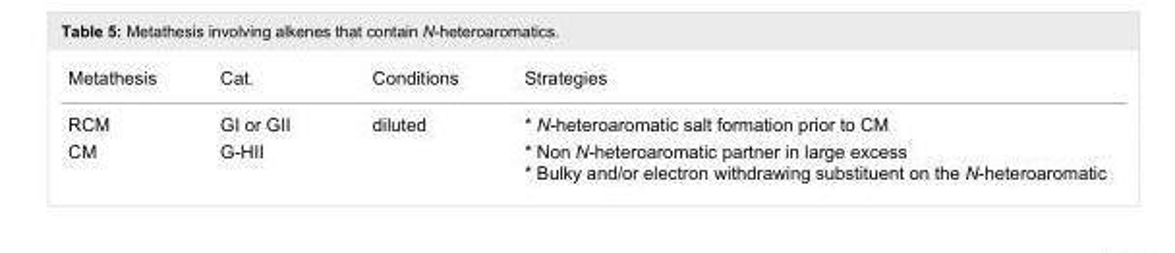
<table><tbody><tr><td>Metathesis</td><td>Cat.</td><td>Conditions</td><td>Strategies</td></tr><tr><td>RCM</td><td>GI or GII</td><td>diluted</td><td>* N-heteroaromatic salt formation prior to CM</td></tr><tr><td>CM</td><td>G-HII</td><td></td><td>* Non N-heteroaromatic partner in large excess * Bulky and/or electron withdrawing substituent on the N-heteroaromatic</td></tr></tbody></table>